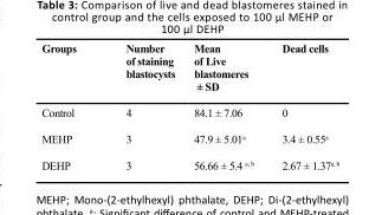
<table><thead><tr><td>Groups</td><td>Number of staining blastocysts</td><td>Mean of Live blastomeres ± SD</td><td>Dead cells</td></tr></thead><tbody><tr><td>Control</td><td>4</td><td>84.1 ± 7.06</td><td>0</td></tr><tr><td>MEHP</td><td>3</td><td>47.9 ± 5.01<sup>a</sup></td><td>3.4 ± 0.55<sup>a</sup></td></tr><tr><td>DEHP</td><td>3</td><td>56.66 ± 5.4 <sup>a, b</sup></td><td>2.67 ± 1.37<sup>a, b</sup></td></tr></tbody></table>